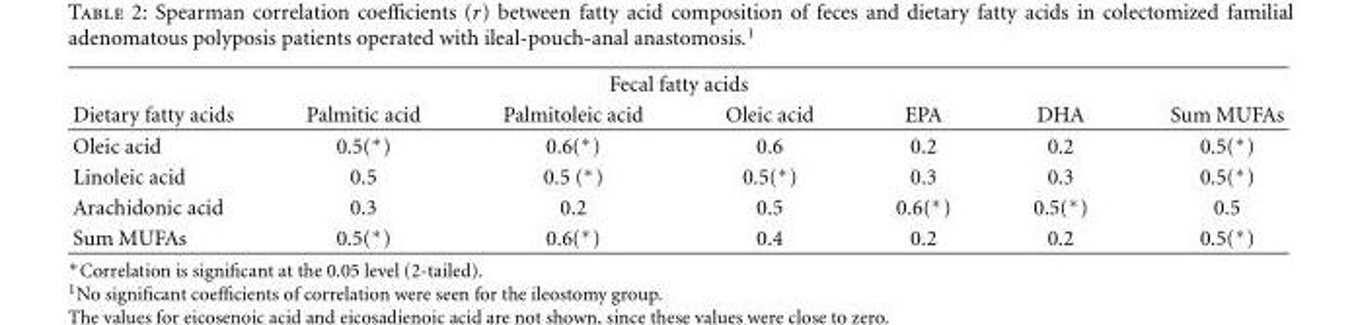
<table><thead><tr><td colspan="7">Fecal fatty acids</td></tr><tr><td>Dietary fatty acids</td><td>Palmitic acid</td><td>Palmitoleic acid</td><td>Oleic acid</td><td>EPA</td><td>DHA</td><td>Sum MUFAs</td></tr></thead><tbody><tr><td>Oleic acid</td><td>0.5(∗)</td><td>0.6(∗)</td><td>0.6</td><td>0.2</td><td>0.2</td><td>0.5(∗)</td></tr><tr><td>Linoleic acid</td><td>0.5</td><td>0.5 (∗)</td><td>0.5(∗)</td><td>0.3</td><td>0.3</td><td>0.5(∗)</td></tr><tr><td>Arachidonic acid</td><td>0.3</td><td>0.2</td><td>0.5</td><td>0.6(∗)</td><td>0.5(∗)</td><td>0.5</td></tr><tr><td>Sum MUFAs</td><td>0.5(∗)</td><td>0.6(∗)</td><td>0.4</td><td>0.2</td><td>0.2</td><td>0.5(∗)</td></tr></tbody></table>